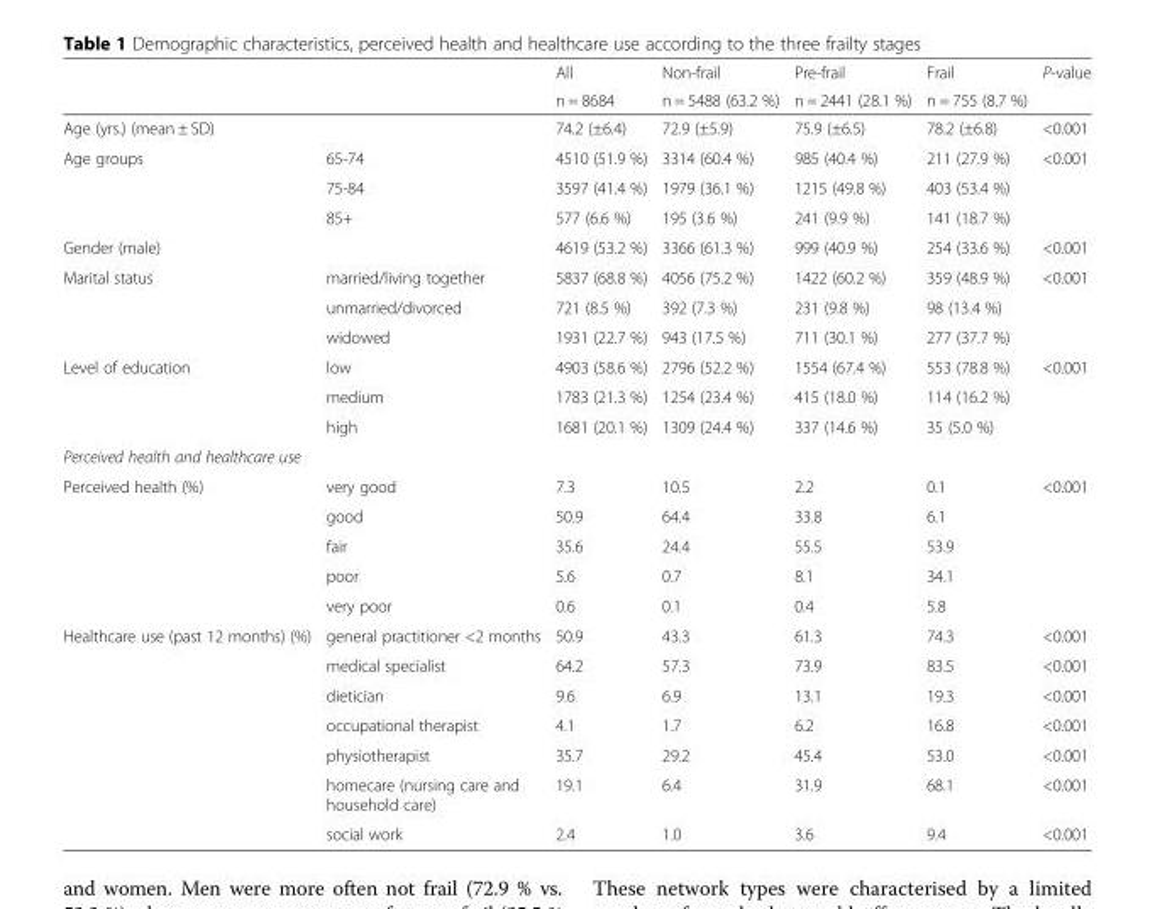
<table><thead><tr><td rowspan="2"></td><td rowspan="2"></td><td rowspan="2">All n = 8684</td><td rowspan="2">Non-frail n = 5488 (63.2 %)</td><td rowspan="2">Pre-frail n = 2441 (28.1 %)</td><td rowspan="2">Frail n = 755 (8.7 %)</td><td rowspan="2">P-value</td></tr><tr></tr></thead><tbody><tr><td>Age (yrs.) (mean ± SD)</td><td></td><td>74.2 (±6.4)</td><td>72.9 (±5.9)</td><td>75.9 (±6.5)</td><td>78.2 (±6.8)</td><td>&lt;0.001</td></tr><tr><td rowspan="3">Age groups</td><td>65-74</td><td>4510 (51.9 %)</td><td>3314 (60.4 %)</td><td>985 (40.4 %)</td><td>211 (27.9 %)</td><td rowspan="3">&lt;0.001</td></tr><tr><td>75-84</td><td>3597 (41.4 %)</td><td>1979 (36.1 %)</td><td>1215 (49.8 %)</td><td>403 (53.4 %)</td></tr><tr><td>85+</td><td>577 (6.6 %)</td><td>195 (3.6 %)</td><td>241 (9.9 %)</td><td>141 (18.7 %)</td></tr><tr><td>Gender (male)</td><td></td><td>4619 (53.2 %)</td><td>3366 (61.3 %)</td><td>999 (40.9 %)</td><td>254 (33.6 %)</td><td>&lt;0.001</td></tr><tr><td rowspan="3">Marital status</td><td>married/living together</td><td>5837 (68.8 %)</td><td>4056 (75.2 %)</td><td>1422 (60.2 %)</td><td>359 (48.9 %)</td><td rowspan="3">&lt;0.001</td></tr><tr><td>unmarried/divorced</td><td>721 (8.5 %)</td><td>392 (7.3 %)</td><td>231 (9.8 %)</td><td>98 (13.4 %)</td></tr><tr><td>widowed</td><td>1931 (22.7 %)</td><td>943 (17.5 %)</td><td>711 (30.1 %)</td><td>277 (37.7 %)</td></tr><tr><td rowspan="3">Level of education</td><td>low</td><td>4903 (58.6 %)</td><td>2796 (52.2 %)</td><td>1554 (67.4 %)</td><td>553 (78.8 %)</td><td rowspan="3">&lt;0.001</td></tr><tr><td>medium</td><td>1783 (21.3 %)</td><td>1254 (23.4 %)</td><td>415 (18.0 %)</td><td>114 (16.2 %)</td></tr><tr><td>high</td><td>1681 (20.1 %)</td><td>1309 (24.4 %)</td><td>337 (14.6 %)</td><td>35 (5.0 %)</td></tr><tr><td colspan="7">Perceived health and healthcare use</td></tr><tr><td rowspan="5">Perceived health (%)</td><td>very good</td><td>7.3</td><td>10.5</td><td>2.2</td><td>0.1</td><td rowspan="5">&lt;0.001</td></tr><tr><td>good</td><td>50.9</td><td>64.4</td><td>33.8</td><td>6.1</td></tr><tr><td>fair</td><td>35.6</td><td>24.4</td><td>55.5</td><td>53.9</td></tr><tr><td>poor</td><td>5.6</td><td>0.7</td><td>8.1</td><td>34.1</td></tr><tr><td>very poor</td><td>0.6</td><td>0.1</td><td>0.4</td><td>5.8</td></tr><tr><td rowspan="7">Healthcare use (past 12 months) (%)</td><td>general practitioner &lt;2 months</td><td>50.9</td><td>43.3</td><td>61.3</td><td>74.3</td><td>&lt;0.001</td></tr><tr><td>medical specialist</td><td>64.2</td><td>57.3</td><td>73.9</td><td>83.5</td><td>&lt;0.001</td></tr><tr><td>dietician</td><td>9.6</td><td>6.9</td><td>13.1</td><td>19.3</td><td>&lt;0.001</td></tr><tr><td>occupational therapist</td><td>4.1</td><td>1.7</td><td>6.2</td><td>16.8</td><td>&lt;0.001</td></tr><tr><td>physiotherapist</td><td>35.7</td><td>29.2</td><td>45.4</td><td>53.0</td><td>&lt;0.001</td></tr><tr><td>homecare (nursing care and household care)</td><td>19.1</td><td>6.4</td><td>31.9</td><td>68.1</td><td>&lt;0.001</td></tr><tr><td>social work</td><td>2.4</td><td>1.0</td><td>3.6</td><td>9.4</td><td>&lt;0.001</td></tr></tbody></table>